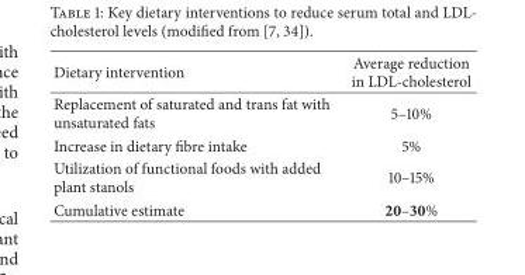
<table><thead><tr><td>Dietary intervention</td><td>Average reduction in LDL-cholesterol</td></tr></thead><tbody><tr><td>Replacement of saturated and trans fat with unsaturated fats</td><td>5–10%</td></tr><tr><td>Increase in dietary fibre intake</td><td>5%</td></tr><tr><td>Utilization of functional foods with added plant stanols</td><td>10–15%</td></tr><tr><td>Cumulative estimate</td><td>20–30%</td></tr></tbody></table>